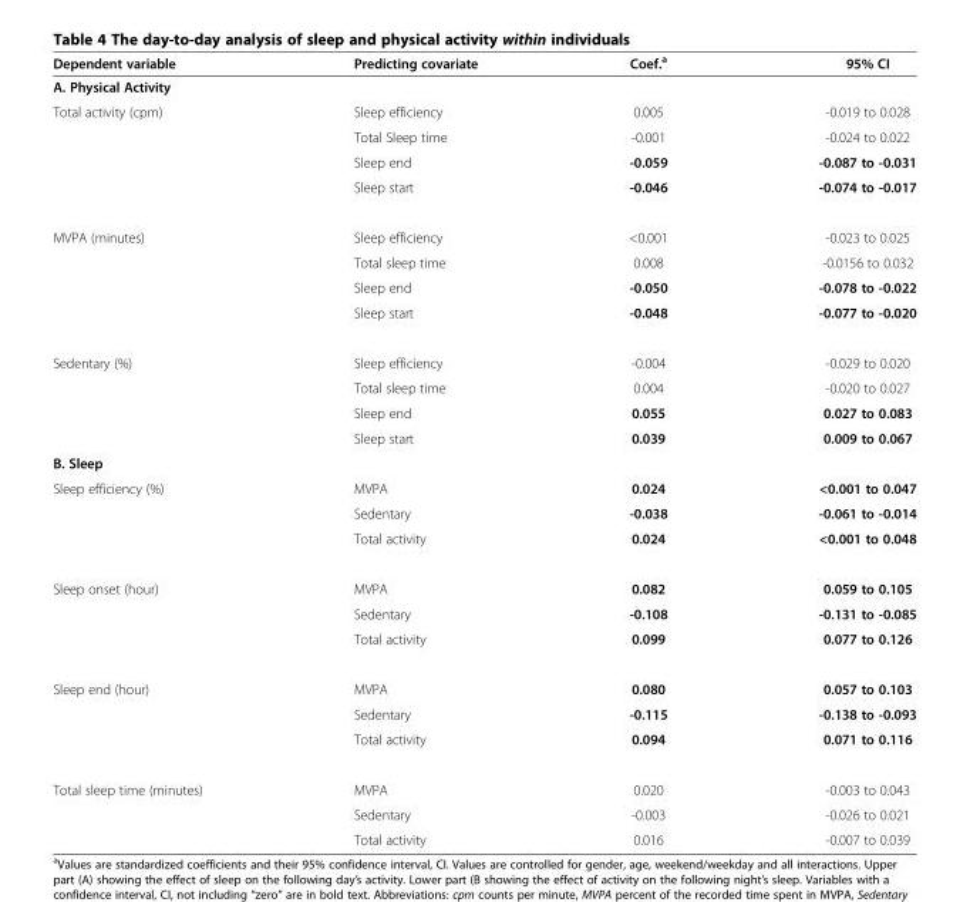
<table><thead><tr><td>Dependent variable</td><td>Predicting covariate</td><td>Coef.<sup>a</sup></td><td>95% CI</td></tr></thead><tbody><tr><td colspan="4">A. Physical Activity</td></tr><tr><td rowspan="4">Total activity (cpm)</td><td>Sleep efficiency</td><td>0.005</td><td>-0.019 to 0.028</td></tr><tr><td>Total Sleep time</td><td>-0.001</td><td>-0.024 to 0.022</td></tr><tr><td>Sleep end</td><td>-0.059</td><td>-0.087 to -0.031</td></tr><tr><td>Sleep start</td><td>-0.046</td><td>-0.074 to -0.017</td></tr><tr><td rowspan="4">MVPA (minutes)</td><td>Sleep efficiency</td><td>&lt;0.001</td><td>-0.023 to 0.025</td></tr><tr><td>Total sleep time</td><td>0.008</td><td>-0.0156 to 0.032</td></tr><tr><td>Sleep end</td><td>-0.050</td><td>-0.078 to -0.022</td></tr><tr><td>Sleep start</td><td>-0.048</td><td>-0.077 to -0.020</td></tr><tr><td rowspan="4">Sedentary (%)</td><td>Sleep efficiency</td><td>-0.004</td><td>-0.029 to 0.020</td></tr><tr><td>Total sleep time</td><td>0.004</td><td>-0.020 to 0.027</td></tr><tr><td>Sleep end</td><td>0.055</td><td>0.027 to 0.083</td></tr><tr><td>Sleep start</td><td>0.039</td><td>0.009 to 0.067</td></tr><tr><td colspan="4">B. Sleep</td></tr><tr><td rowspan="3">Sleep efficiency (%)</td><td>MVPA</td><td>0.024</td><td>&lt;0.001 to 0.047</td></tr><tr><td>Sedentary</td><td>-0.038</td><td>-0.061 to -0.014</td></tr><tr><td>Total activity</td><td>0.024</td><td>&lt;0.001 to 0.048</td></tr><tr><td rowspan="3">Sleep onset (hour)</td><td>MVPA</td><td>0.082</td><td>0.059 to 0.105</td></tr><tr><td>Sedentary</td><td>-0.108</td><td>-0.131 to -0.085</td></tr><tr><td>Total activity</td><td>0.099</td><td>0.077 to 0.126</td></tr><tr><td rowspan="3">Sleep end (hour)</td><td>MVPA</td><td>0.080</td><td>0.057 to 0.103</td></tr><tr><td>Sedentary</td><td>-0.115</td><td>-0.138 to -0.093</td></tr><tr><td>Total activity</td><td>0.094</td><td>0.071 to 0.116</td></tr><tr><td rowspan="3">Total sleep time (minutes)</td><td>MVPA</td><td>0.020</td><td>-0.003 to 0.043</td></tr><tr><td>Sedentary</td><td>-0.003</td><td>-0.026 to 0.021</td></tr><tr><td>Total activity</td><td>0.016</td><td>-0.007 to 0.039</td></tr></tbody></table>